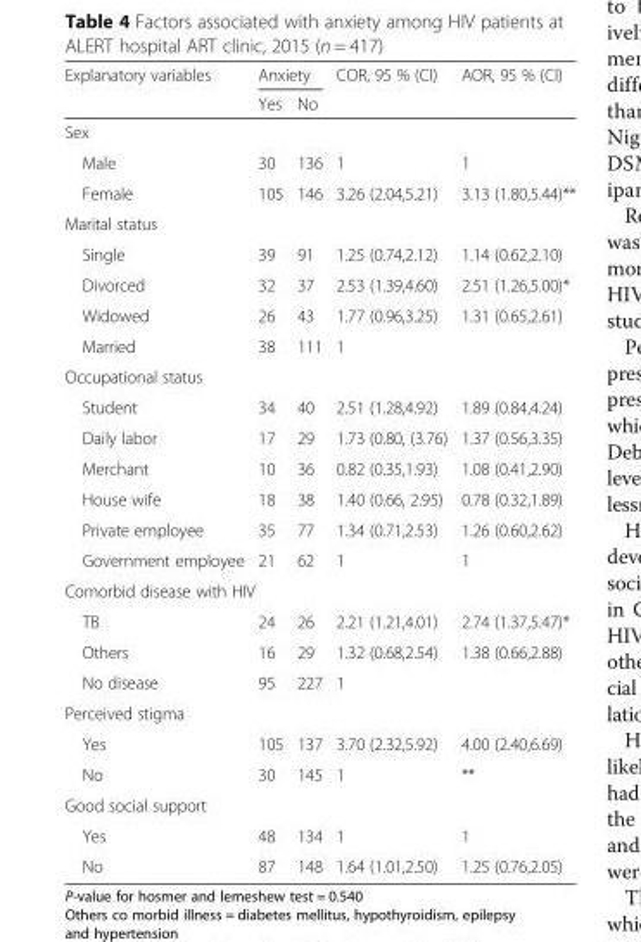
<table><thead><tr><td rowspan="2">Explanatory variables</td><td colspan="2">Anxiety</td><td rowspan="2">COR, 95 % (CI)</td><td rowspan="2">AOR, 95 % (CI)</td></tr><tr><td>Yes</td><td>No</td></tr></thead><tbody><tr><td colspan="5">Sex</td></tr><tr><td>Male</td><td>30</td><td>136</td><td>1</td><td>1</td></tr><tr><td>Female</td><td>105</td><td>146</td><td>3.26 (2.04,5.21)</td><td>3.13 (1.80,5.44)**</td></tr><tr><td colspan="5">Marital status</td></tr><tr><td>Single</td><td>39</td><td>91</td><td>1.25 (0.74,2.12)</td><td>1.14 (0.62,2.10)</td></tr><tr><td>Divorced</td><td>32</td><td>37</td><td>2.53 (1.39,4.60)</td><td>2.51 (1.26,5.00)*</td></tr><tr><td>Widowed</td><td>26</td><td>43</td><td>1.77 (0.96,3.25)</td><td>1.31 (0.65,2.61)</td></tr><tr><td>Married</td><td>38</td><td>111</td><td>1</td><td></td></tr><tr><td colspan="5">Occupational status</td></tr><tr><td>Student</td><td>34</td><td>40</td><td>2.51 (1.28,4.92)</td><td>1.89 (0.84,4.24)</td></tr><tr><td>Daily labor</td><td>17</td><td>29</td><td>1.73 (0.80, (3.76)</td><td>1.37 (0.56,3.35)</td></tr><tr><td>Merchant</td><td>10</td><td>36</td><td>0.82 (0.35,1.93)</td><td>1.08 (0.41,2.90)</td></tr><tr><td>House wife</td><td>18</td><td>38</td><td>1.40 (0.66, 2.95)</td><td>0.78 (0.32,1.89)</td></tr><tr><td>Private employee</td><td>35</td><td>77</td><td>1.34 (0.71,2.53)</td><td>1.26 (0.60,2.62)</td></tr><tr><td>Government employee</td><td>21</td><td>62</td><td>1</td><td>1</td></tr><tr><td colspan="5">Comorbid disease with HIV</td></tr><tr><td>TB</td><td>24</td><td>26</td><td>2.21 (1.21,4.01)</td><td>2.74 (1.37,5.47)*</td></tr><tr><td>Others</td><td>16</td><td>29</td><td>1.32 (0.68,2.54)</td><td>1.38 (0.66,2.88)</td></tr><tr><td>No disease</td><td>95</td><td>227</td><td>1</td><td></td></tr><tr><td colspan="5">Perceived stigma</td></tr><tr><td>Yes</td><td>105</td><td>137</td><td>3.70 (2.32,5.92)</td><td>4.00 (2.40,6.69)</td></tr><tr><td>No</td><td>30</td><td>145</td><td>1</td><td>**</td></tr><tr><td colspan="5">Good social support</td></tr><tr><td>Yes</td><td>48</td><td>134</td><td>1</td><td>1</td></tr><tr><td>No</td><td>87</td><td>148</td><td>1.64 (1.01,2.50)</td><td>1.25 (0.76,2.05)</td></tr></tbody></table>